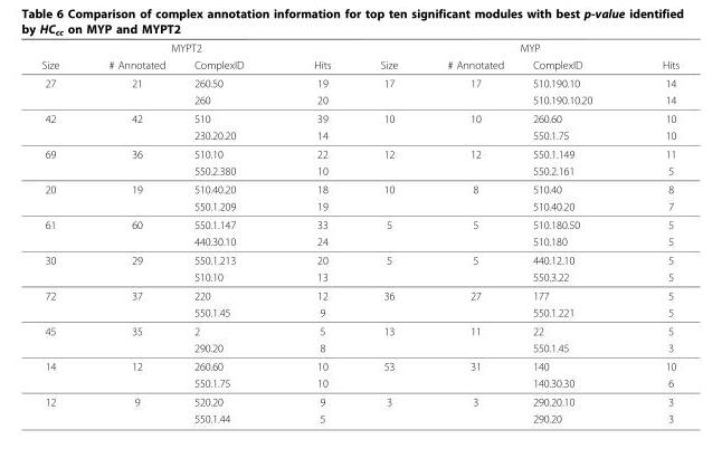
<table><thead><tr><td colspan="4">MYPT2</td><td colspan="4">MYP</td></tr><tr><td>Size</td><td># Annotated</td><td>ComplexID</td><td>Hits</td><td>Size</td><td># Annotated</td><td>ComplexID</td><td>Hits</td></tr></thead><tbody><tr><td rowspan="2">27</td><td rowspan="2">21</td><td>260.50</td><td>19</td><td rowspan="2">17</td><td rowspan="2">17</td><td>510.190.10</td><td>14</td></tr><tr><td>260</td><td>20</td><td>510.190.10.20</td><td>14</td></tr><tr><td rowspan="2">42</td><td rowspan="2">42</td><td>510</td><td>39</td><td rowspan="2">10</td><td rowspan="2">10</td><td>260.60</td><td>10</td></tr><tr><td>230.20.20</td><td>14</td><td>550.1.75</td><td>10</td></tr><tr><td rowspan="2">69</td><td rowspan="2">36</td><td>510.10</td><td>22</td><td rowspan="2">12</td><td rowspan="2">12</td><td>550.1.149</td><td>11</td></tr><tr><td>550.2.380</td><td>10</td><td>550.2.161</td><td>5</td></tr><tr><td rowspan="2">20</td><td rowspan="2">19</td><td>510.40.20</td><td>18</td><td rowspan="2">10</td><td rowspan="2">8</td><td>510.40</td><td>8</td></tr><tr><td>550.1.209</td><td>19</td><td>510.40.20</td><td>7</td></tr><tr><td rowspan="2">61</td><td rowspan="2">60</td><td>550.1.147</td><td>33</td><td rowspan="2">5</td><td rowspan="2">5</td><td>510.180.50</td><td>5</td></tr><tr><td>440.30.10</td><td>24</td><td>510.180</td><td>5</td></tr><tr><td rowspan="2">30</td><td rowspan="2">29</td><td>550.1.213</td><td>20</td><td rowspan="2">5</td><td rowspan="2">5</td><td>440.12.10</td><td>5</td></tr><tr><td>510.10</td><td>13</td><td>550.3.22</td><td>5</td></tr><tr><td rowspan="2">72</td><td rowspan="2">37</td><td>220</td><td>12</td><td rowspan="2">36</td><td rowspan="2">27</td><td>177</td><td>5</td></tr><tr><td>550.1.45</td><td>9</td><td>550.1.221</td><td>5</td></tr><tr><td rowspan="2">45</td><td rowspan="2">35</td><td>2</td><td>5</td><td rowspan="2">13</td><td rowspan="2">11</td><td>22</td><td>5</td></tr><tr><td>290.20</td><td>8</td><td>550.1.45</td><td>3</td></tr><tr><td rowspan="2">14</td><td rowspan="2">12</td><td>260.60</td><td>10</td><td rowspan="2">53</td><td rowspan="2">31</td><td>140</td><td>10</td></tr><tr><td>550.1.75</td><td>10</td><td>140.30.30</td><td>6</td></tr><tr><td rowspan="2">12</td><td rowspan="2">9</td><td>520.20</td><td>9</td><td rowspan="2">3</td><td rowspan="2">3</td><td>290.20.10</td><td>3</td></tr><tr><td>550.1.44</td><td>5</td><td>290.20</td><td>3</td></tr></tbody></table>